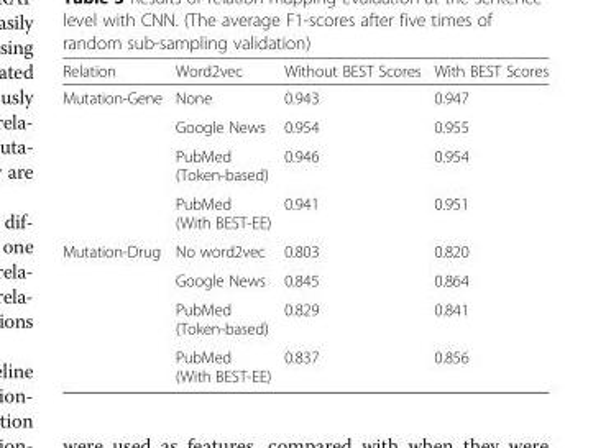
<table><thead><tr><td>Relation</td><td>Word2vec</td><td>Without BEST Scores</td><td>With BEST Scores</td></tr></thead><tbody><tr><td rowspan="4">Mutation-Gene</td><td>None</td><td>0.943</td><td>0.947</td></tr><tr><td>Google News</td><td>0.954</td><td>0.955</td></tr><tr><td>PubMed (Token-based)</td><td>0.946</td><td>0.954</td></tr><tr><td>PubMed (With BEST-EE)</td><td>0.941</td><td>0.951</td></tr><tr><td rowspan="4">Mutation-Drug</td><td>No word2vec</td><td>0.803</td><td>0.820</td></tr><tr><td>Google News</td><td>0.845</td><td>0.864</td></tr><tr><td>PubMed (Token-based)</td><td>0.829</td><td>0.841</td></tr><tr><td>PubMed (With BEST-EE)</td><td>0.837</td><td>0.856</td></tr></tbody></table>